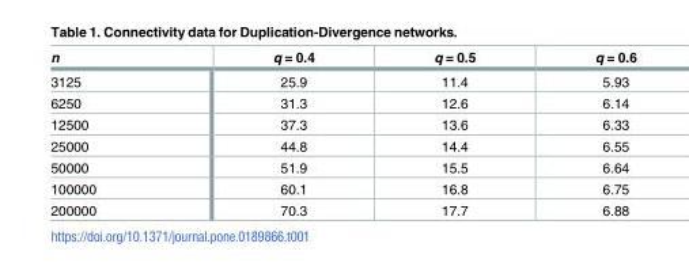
<table><thead><tr><td>n</td><td>q = 0.4</td><td>q = 0.5</td><td>q = 0.6</td></tr></thead><tbody><tr><td>3125</td><td>25.9</td><td>11.4</td><td>5.93</td></tr><tr><td>6250</td><td>31.3</td><td>12.6</td><td>6.14</td></tr><tr><td>12500</td><td>37.3</td><td>13.6</td><td>6.33</td></tr><tr><td>25000</td><td>44.8</td><td>14.4</td><td>6.55</td></tr><tr><td>50000</td><td>51.9</td><td>15.5</td><td>6.64</td></tr><tr><td>100000</td><td>60.1</td><td>16.8</td><td>6.75</td></tr><tr><td>200000</td><td>70.3</td><td>17.7</td><td>6.88</td></tr></tbody></table>